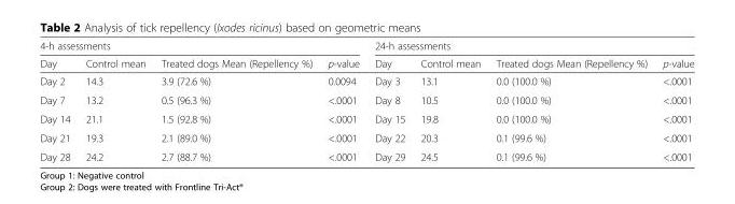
<table><thead><tr><td colspan="4">4-h assessments</td><td colspan="4">24-h assessments</td></tr><tr><td>Day</td><td>Control mean</td><td>Treated dogs Mean (Repellency %)</td><td>p-value</td><td>Day</td><td>Control mean</td><td>Treated dogs Mean (Repellency %)</td><td>p-value</td></tr></thead><tbody><tr><td>Day 2</td><td>14.3</td><td>3.9 (72.6 %)</td><td>0.0094</td><td>Day 3</td><td>13.1</td><td>0.0 (100.0 %)</td><td>&lt;.0001</td></tr><tr><td>Day 7</td><td>13.2</td><td>0.5 (96.3 %)</td><td>&lt;.0001</td><td>Day 8</td><td>10.5</td><td>0.0 (100.0 %)</td><td>&lt;.0001</td></tr><tr><td>Day 14</td><td>21.1</td><td>1.5 (92.8 %)</td><td>&lt;.0001</td><td>Day 15</td><td>19.8</td><td>0.0 (100.0 %)</td><td>&lt;.0001</td></tr><tr><td>Day 21</td><td>19.3</td><td>2.1 (89.0 %)</td><td>&lt;.0001</td><td>Day 22</td><td>20.3</td><td>0.1 (99.6 %)</td><td>&lt;.0001</td></tr><tr><td>Day 28</td><td>24.2</td><td>2.7 (88.7 %)</td><td>&lt;.0001</td><td>Day 29</td><td>24.5</td><td>0.1 (99.6 %)</td><td>&lt;.0001</td></tr></tbody></table>